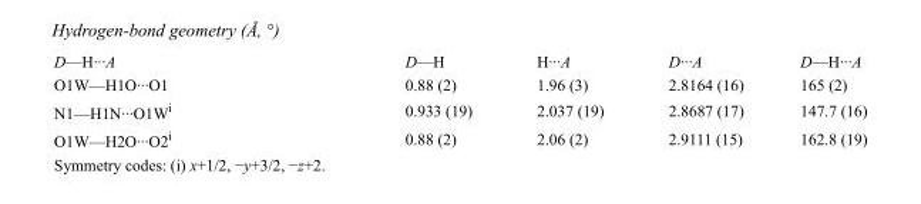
<table><tbody><tr><td>D—H···A</td><td>D—H</td><td>H···A</td><td>D···A</td><td>D—H···A</td></tr><tr><td>O1W—H1O···O1</td><td>0.88 (2)</td><td>1.96 (3)</td><td>2.8164 (16)</td><td>165 (2)</td></tr><tr><td>N1—H1N···O1W<sup>i</sup></td><td>0.933 (19)</td><td>2.037 (19)</td><td>2.8687 (17)</td><td>147.7 (16)</td></tr><tr><td>O1W—H2O···O2<sup>i</sup></td><td>0.88 (2)</td><td>2.06 (2)</td><td>2.9111 (15)</td><td>162.8 (19)</td></tr></tbody></table>